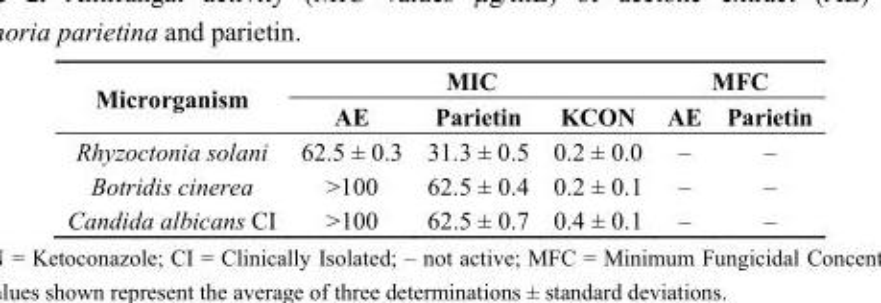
<table><thead><tr><td rowspan="2">Microrganism</td><td colspan="3">MIC</td><td colspan="2">MFC</td></tr><tr><td>AE</td><td>Parietin</td><td>KCON</td><td>AE</td><td>Parietin</td></tr></thead><tbody><tr><td>Rhyzoctonia solani</td><td>62.5 ± 0.3</td><td>31.3 ± 0.5</td><td>0.2 ± 0.0</td><td>–</td><td>–</td></tr><tr><td>Botridis cinerea</td><td>&gt;100</td><td>62.5 ± 0.4</td><td>0.2 ± 0.1</td><td>–</td><td>–</td></tr><tr><td>Candida albicans CI</td><td>&gt;100</td><td>62.5 ± 0.7</td><td>0.4 ± 0.1</td><td>–</td><td>–</td></tr></tbody></table>